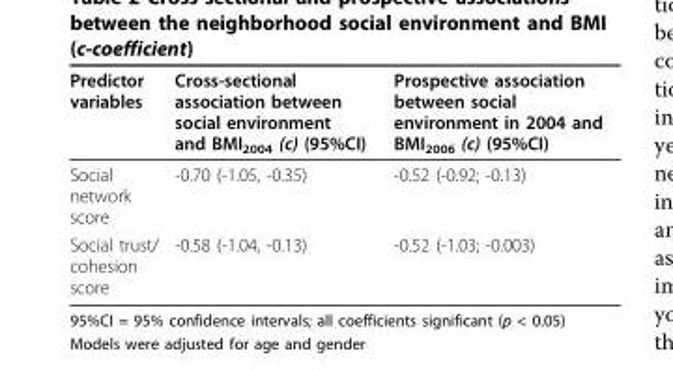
<table><thead><tr><td>Predictor variables</td><td>Cross-sectional association between social environment and BMI<sub>2004</sub> (c) (95%CI)</td><td>Prospective association between social environment in 2004 and BMI<sub>2006</sub> (c) (95%CI)</td></tr></thead><tbody><tr><td>Social network score</td><td>-0.70 (-1.05, -0.35)</td><td>-0.52 (-0.92; -0.13)</td></tr><tr><td>Social trust/ cohesion score</td><td>-0.58 (-1.04, -0.13)</td><td>-0.52 (-1.03; -0.003)</td></tr></tbody></table>